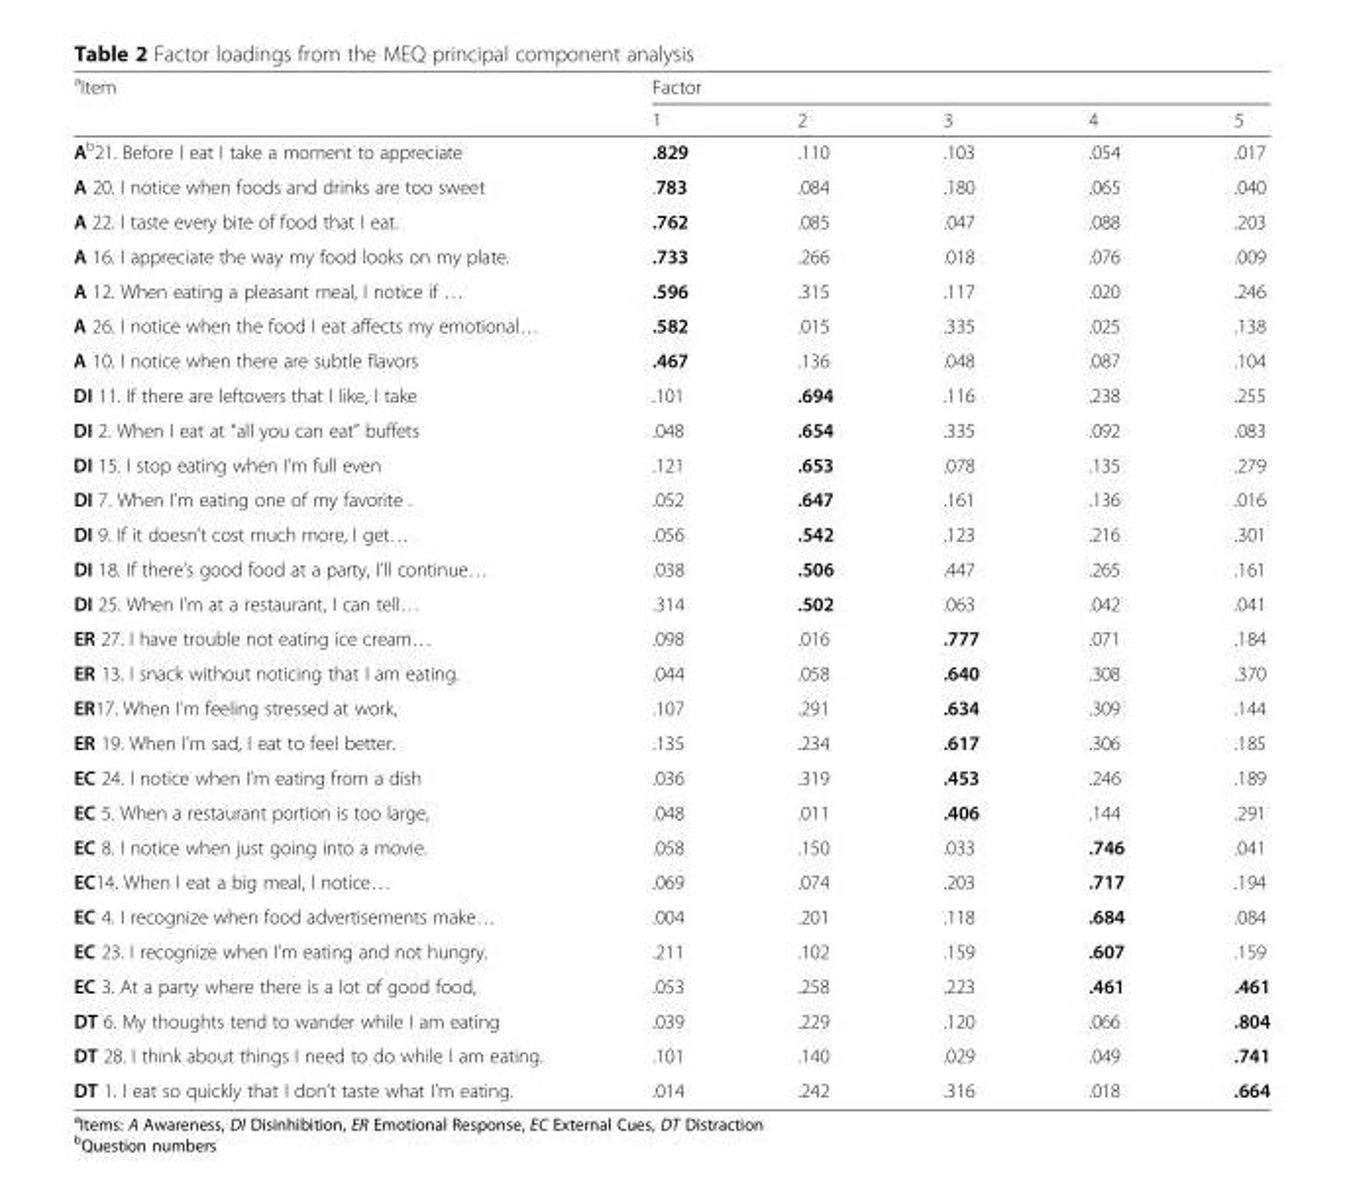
<table><thead><tr><td rowspan="2"><sup>a</sup>Item</td><td colspan="5">Factor</td></tr><tr><td>1</td><td>2</td><td>3</td><td>4</td><td>5</td></tr></thead><tbody><tr><td>A<sup>b</sup>21. Before I eat I take a moment to appreciate</td><td>.829</td><td>.110</td><td>.103</td><td>.054</td><td>.017</td></tr><tr><td>A 20. I notice when foods and drinks are too sweet</td><td>.783</td><td>.084</td><td>.180</td><td>.065</td><td>.040</td></tr><tr><td>A 22. I taste every bite of food that I eat.</td><td>.762</td><td>.085</td><td>.047</td><td>.088</td><td>.203</td></tr><tr><td>A 16. I appreciate the way my food looks on my plate.</td><td>.733</td><td>.266</td><td>.018</td><td>.076</td><td>.009</td></tr><tr><td>A 12. When eating a pleasant meal, I notice if …</td><td>.596</td><td>.315</td><td>.117</td><td>.020</td><td>.246</td></tr><tr><td>A 26. I notice when the food I eat affects my emotional…</td><td>.582</td><td>.015</td><td>.335</td><td>.025</td><td>.138</td></tr><tr><td>A 10. I notice when there are subtle flavors</td><td>.467</td><td>.136</td><td>.048</td><td>.087</td><td>.104</td></tr><tr><td>DI 11. If there are leftovers that I like, I take</td><td>.101</td><td>.694</td><td>.116</td><td>.238</td><td>.255</td></tr><tr><td>DI 2. When I eat at “all you can eat” buffets</td><td>.048</td><td>.654</td><td>.335</td><td>.092</td><td>.083</td></tr><tr><td>DI 15. I stop eating when I’m full even</td><td>.121</td><td>.653</td><td>.078</td><td>.135</td><td>.279</td></tr><tr><td>DI 7. When I’m eating one of my favorite .</td><td>.052</td><td>.647</td><td>.161</td><td>.136</td><td>.016</td></tr><tr><td>DI 9. If it doesn’t cost much more, I get…</td><td>.056</td><td>.542</td><td>.123</td><td>.216</td><td>.301</td></tr><tr><td>DI 18. If there’s good food at a party, I’ll continue…</td><td>.038</td><td>.506</td><td>.447</td><td>.265</td><td>.161</td></tr><tr><td>DI 25. When I’m at a restaurant, I can tell…</td><td>.314</td><td>.502</td><td>.063</td><td>.042</td><td>.041</td></tr><tr><td>ER 27. I have trouble not eating ice cream…</td><td>.098</td><td>.016</td><td>.777</td><td>.071</td><td>.184</td></tr><tr><td>ER 13. I snack without noticing that I am eating.</td><td>.044</td><td>.058</td><td>.640</td><td>.308</td><td>.370</td></tr><tr><td>ER17. When I’m feeling stressed at work,</td><td>.107</td><td>.291</td><td>.634</td><td>.309</td><td>.144</td></tr><tr><td>ER 19. When I’m sad, I eat to feel better.</td><td>.135</td><td>.234</td><td>.617</td><td>.306</td><td>.185</td></tr><tr><td>EC 24. I notice when I’m eating from a dish</td><td>.036</td><td>.319</td><td>.453</td><td>.246</td><td>.189</td></tr><tr><td>EC 5. When a restaurant portion is too large,</td><td>.048</td><td>.011</td><td>.406</td><td>.144</td><td>.291</td></tr><tr><td>EC 8. I notice when just going into a movie.</td><td>.058</td><td>.150</td><td>.033</td><td>.746</td><td>.041</td></tr><tr><td>EC14. When I eat a big meal, I notice…</td><td>.069</td><td>.074</td><td>.203</td><td>.717</td><td>.194</td></tr><tr><td>EC 4. I recognize when food advertisements make…</td><td>.004</td><td>.201</td><td>.118</td><td>.684</td><td>.084</td></tr><tr><td>EC 23. I recognize when I’m eating and not hungry.</td><td>.211</td><td>.102</td><td>.159</td><td>.607</td><td>.159</td></tr><tr><td>EC 3. At a party where there is a lot of good food,</td><td>.053</td><td>.258</td><td>.223</td><td>.461</td><td>.461</td></tr><tr><td>DT 6. My thoughts tend to wander while I am eating</td><td>.039</td><td>.229</td><td>.120</td><td>.066</td><td>.804</td></tr><tr><td>DT 28. I think about things I need to do while I am eating.</td><td>.101</td><td>.140</td><td>.029</td><td>.049</td><td>.741</td></tr><tr><td>DT 1. I eat so quickly that I don’t taste what I’m eating.</td><td>.014</td><td>.242</td><td>.316</td><td>.018</td><td>.664</td></tr></tbody></table>